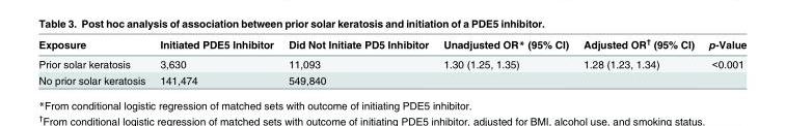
<table><thead><tr><td>Exposure</td><td>Initiated PDE5 Inhibitor</td><td>Did Not Initiate PD5 Inhibitor</td><td>Unadjusted OR* (95% CI)</td><td>Adjusted OR<sup>†</sup> (95% CI)</td><td>p-Value</td></tr></thead><tbody><tr><td>Prior solar keratosis</td><td>3,630</td><td>11,093</td><td>1.30 (1.25, 1.35)</td><td>1.28 (1.23, 1.34)</td><td>&lt;0.001</td></tr><tr><td>No prior solar keratosis</td><td>141,474</td><td>549,840</td><td></td><td></td><td></td></tr></tbody></table>